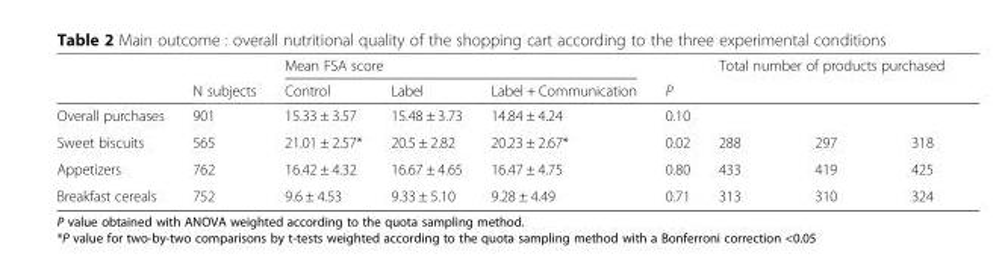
<table><thead><tr><td rowspan="2"></td><td rowspan="2">N subjects</td><td colspan="3">Mean FSA score</td><td rowspan="2">P</td><td colspan="3">Total number of products purchased</td></tr><tr><td>Control</td><td>Label</td><td>Label + Communication</td><td></td><td></td><td></td></tr></thead><tbody><tr><td>Overall purchases</td><td>901</td><td>15.33 ± 3.57</td><td>15.48 ± 3.73</td><td>14.84 ± 4.24</td><td>0.10</td><td></td><td></td><td></td></tr><tr><td>Sweet biscuits</td><td>565</td><td>21.01 ± 2.57*</td><td>20.5 ± 2.82</td><td>20.23 ± 2.67*</td><td>0.02</td><td>288</td><td>297</td><td>318</td></tr><tr><td>Appetizers</td><td>762</td><td>16.42 ± 4.32</td><td>16.67 ± 4.65</td><td>16.47 ± 4.75</td><td>0.80</td><td>433</td><td>419</td><td>425</td></tr><tr><td>Breakfast cereals</td><td>752</td><td>9.6 ± 4.53</td><td>9.33 ± 5.10</td><td>9.28 ± 4.49</td><td>0.71</td><td>313</td><td>310</td><td>324</td></tr></tbody></table>